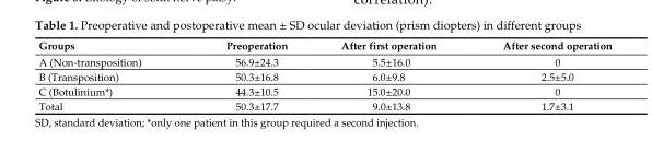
<table><thead><tr><td>Groups</td><td>Preoperation</td><td>After first operation</td><td>After second operation</td></tr></thead><tbody><tr><td>A (Non-transposition)</td><td>56.9±24.3</td><td>5.5±16.0</td><td>0</td></tr><tr><td>B (Transposition)</td><td>50.3±16.8</td><td>6.0±9.8</td><td>2.5±5.0</td></tr><tr><td>C (Botulinium*)</td><td>44.3±10.5</td><td>15.0±20.0</td><td>0</td></tr><tr><td>Total</td><td>50.3±17.7</td><td>9.0±13.8</td><td>1.7±3.1</td></tr></tbody></table>